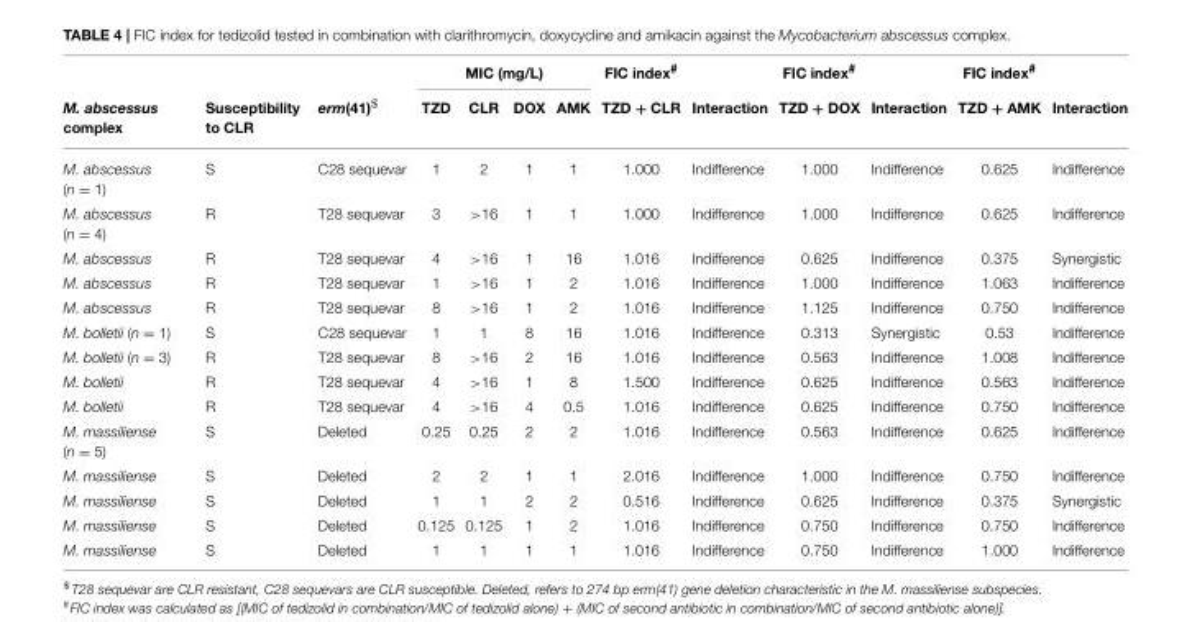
<table><thead><tr><td rowspan="2">M. abscessus complex</td><td rowspan="2">Susceptibility to CLR</td><td rowspan="2">erm(41)<sup>$</sup></td><td colspan="4">MIC (mg/L)</td><td rowspan="2">FIC index<sup>#</sup> TZD + CLR</td><td rowspan="2">Interaction</td><td rowspan="2">FIC index<sup>#</sup> TZD + DOX</td><td rowspan="2">Interaction</td><td rowspan="2">FIC index<sup>#</sup> TZD + AMK</td><td rowspan="2">Interaction</td></tr><tr><td>TZD</td><td>CLR</td><td>DOX</td><td>AMK</td></tr></thead><tbody><tr><td>M. abscessus (n = 1)</td><td>S</td><td>C28 sequevar</td><td>1</td><td>2</td><td>1</td><td>1</td><td>1.000</td><td>Indifference</td><td>1.000</td><td>Indifference</td><td>0.625</td><td>Indifference</td></tr><tr><td>M. abscessus (n = 4)</td><td>R</td><td>T28 sequevar</td><td>3</td><td>&gt;16</td><td>1</td><td>1</td><td>1.000</td><td>Indifference</td><td>1.000</td><td>Indifference</td><td>0.625</td><td>Indifference</td></tr><tr><td>M. abscessus</td><td>R</td><td>T28 sequevar</td><td>4</td><td>&gt;16</td><td>1</td><td>16</td><td>1.016</td><td>Indifference</td><td>0.625</td><td>Indifference</td><td>0.375</td><td>Synergistic</td></tr><tr><td>M. abscessus</td><td>R</td><td>T28 sequevar</td><td>1</td><td>&gt;16</td><td>1</td><td>2</td><td>1.016</td><td>Indifference</td><td>1.000</td><td>Indifference</td><td>1.063</td><td>Indifference</td></tr><tr><td>M. abscessus</td><td>R</td><td>T28 sequevar</td><td>8</td><td>&gt;16</td><td>1</td><td>2</td><td>1.016</td><td>Indifference</td><td>1.125</td><td>Indifference</td><td>0.750</td><td>Indifference</td></tr><tr><td>M. bolletii (n = 1)</td><td>S</td><td>C28 sequevar</td><td>1</td><td>1</td><td>8</td><td>16</td><td>1.016</td><td>Indifference</td><td>0.313</td><td>Synergistic</td><td>0.53</td><td>Indifference</td></tr><tr><td>M. bolletii (n = 3)</td><td>R</td><td>T28 sequevar</td><td>8</td><td>&gt;16</td><td>2</td><td>16</td><td>1.016</td><td>Indifference</td><td>0.563</td><td>Indifference</td><td>1.008</td><td>Indifference</td></tr><tr><td>M. bolletii</td><td>R</td><td>T28 sequevar</td><td>4</td><td>&gt;16</td><td>1</td><td>8</td><td>1.500</td><td>Indifference</td><td>0.625</td><td>Indifference</td><td>0.563</td><td>Indifference</td></tr><tr><td>M. bolletii</td><td>R</td><td>T28 sequevar</td><td>4</td><td>&gt;16</td><td>4</td><td>0.5</td><td>1.016</td><td>Indifference</td><td>0.625</td><td>Indifference</td><td>0.750</td><td>Indifference</td></tr><tr><td>M. massiliense (n = 5)</td><td>S</td><td>Deleted</td><td>0.25</td><td>0.25</td><td>2</td><td>2</td><td>1.016</td><td>Indifference</td><td>0.563</td><td>Indifference</td><td>0.625</td><td>Indifference</td></tr><tr><td>M. massiliense</td><td>S</td><td>Deleted</td><td>2</td><td>2</td><td>1</td><td>1</td><td>2.016</td><td>Indifference</td><td>1.000</td><td>Indifference</td><td>0.750</td><td>Indifference</td></tr><tr><td>M. massiliense</td><td>S</td><td>Deleted</td><td>1</td><td>1</td><td>2</td><td>2</td><td>0.516</td><td>Indifference</td><td>0.625</td><td>Indifference</td><td>0.375</td><td>Synergistic</td></tr><tr><td>M. massiliense</td><td>S</td><td>Deleted</td><td>0.125</td><td>0.125</td><td>1</td><td>2</td><td>1.016</td><td>Indifference</td><td>0.750</td><td>Indifference</td><td>0.750</td><td>Indifference</td></tr><tr><td>M. massiliense</td><td>S</td><td>Deleted</td><td>1</td><td>1</td><td>1</td><td>1</td><td>1.016</td><td>Indifference</td><td>0.750</td><td>Indifference</td><td>1.000</td><td>Indifference</td></tr></tbody></table>